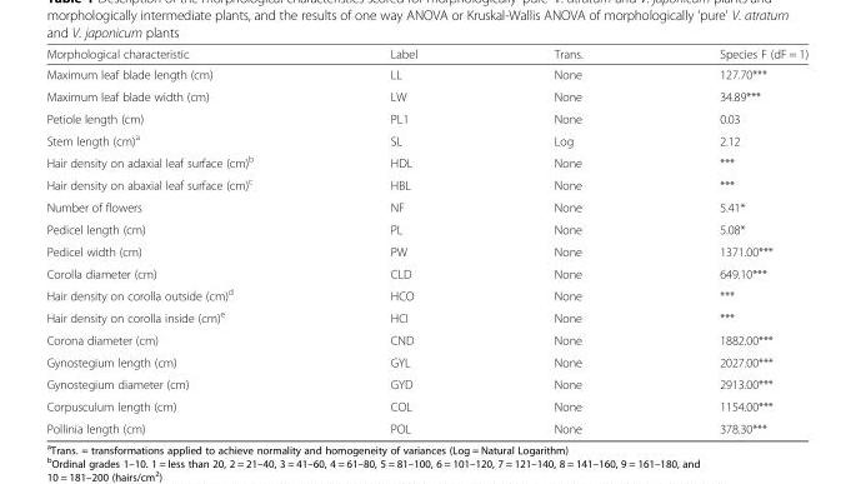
<table><thead><tr><td>Morphological characteristic</td><td>Label</td><td>Trans.</td><td>Species F (dF = 1)</td></tr></thead><tbody><tr><td>Maximum leaf blade length (cm)</td><td>LL</td><td>None</td><td>127.70***</td></tr><tr><td>Maximum leaf blade width (cm)</td><td>LW</td><td>None</td><td>34.89***</td></tr><tr><td>Petiole length (cm)</td><td>PL1</td><td>None</td><td>0.03</td></tr><tr><td>Stem length (cm)<sup>a</sup></td><td>SL</td><td>Log</td><td>2.12</td></tr><tr><td>Hair density on adaxial leaf surface (cm)<sup>b</sup></td><td>HDL</td><td>None</td><td>***</td></tr><tr><td>Hair density on abaxial leaf surface (cm)<sup>c</sup></td><td>HBL</td><td>None</td><td>***</td></tr><tr><td>Number of flowers</td><td>NF</td><td>None</td><td>5.41*</td></tr><tr><td>Pedicel length (cm)</td><td>PL</td><td>None</td><td>5.08*</td></tr><tr><td>Pedicel width (cm)</td><td>PW</td><td>None</td><td>1371.00***</td></tr><tr><td>Corolla diameter (cm)</td><td>CLD</td><td>None</td><td>649.10***</td></tr><tr><td>Hair density on corolla outside (cm)<sup>d</sup></td><td>HCO</td><td>None</td><td>***</td></tr><tr><td>Hair density on corolla inside (cm)<sup>e</sup></td><td>HCI</td><td>None</td><td>***</td></tr><tr><td>Corona diameter (cm)</td><td>CND</td><td>None</td><td>1882.00***</td></tr><tr><td>Gynostegium length (cm)</td><td>GYL</td><td>None</td><td>2027.00***</td></tr><tr><td>Gynostegium diameter (cm)</td><td>GYD</td><td>None</td><td>2913.00***</td></tr><tr><td>Corpusculum length (cm)</td><td>COL</td><td>None</td><td>1154.00***</td></tr><tr><td>Pollinia length (cm)</td><td>POL</td><td>None</td><td>378.30***</td></tr></tbody></table>